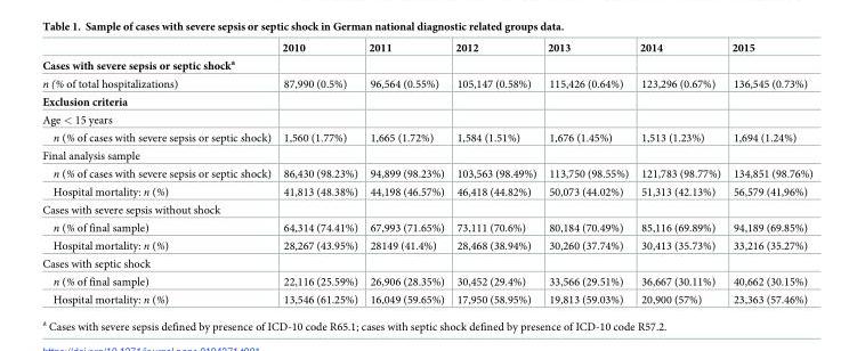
<table><thead><tr><td></td><td>2010</td><td>2011</td><td>2012</td><td>2013</td><td>2014</td><td>2015</td></tr></thead><tbody><tr><td colspan="7">Cases with severe sepsis or septic shock<sup>a</sup></td></tr><tr><td>n (% of total hospitalizations)</td><td>87,990 (0.5%)</td><td>96,564 (0.55%)</td><td>105,147 (0.58%)</td><td>115,426 (0.64%)</td><td>123,296 (0.67%)</td><td>136,545 (0.73%)</td></tr><tr><td colspan="7">Exclusion criteria</td></tr><tr><td colspan="7">Age &lt; 15 years</td></tr><tr><td>n (% of cases with severe sepsis or septic shock)</td><td>1,560 (1.77%)</td><td>1,665 (1.72%)</td><td>1,584 (1.51%)</td><td>1,676 (1.45%)</td><td>1,513 (1.23%)</td><td>1,694 (1.24%)</td></tr><tr><td colspan="7">Final analysis sample</td></tr><tr><td>n (% of cases with severe sepsis or septic shock)</td><td>86,430 (98.23%)</td><td>94,899 (98.23%)</td><td>103,563 (98.49%)</td><td>113,750 (98.55%)</td><td>121,783 (98.77%)</td><td>134,851 (98.76%)</td></tr><tr><td>Hospital mortality: n (%)</td><td>41,813 (48.38%)</td><td>44,198 (46.57%)</td><td>46,418 (44.82%)</td><td>50,073 (44.02%)</td><td>51,313 (42.13%)</td><td>56,579 (41,96%)</td></tr><tr><td colspan="7">Cases with severe sepsis without shock</td></tr><tr><td>n (% of final sample)</td><td>64,314 (74.41%)</td><td>67,993 (71.65%)</td><td>73,111 (70.6%)</td><td>80,184 (70.49%)</td><td>85,116 (69.89%)</td><td>94,189 (69.85%)</td></tr><tr><td>Hospital mortality: n (%)</td><td>28,267 (43.95%)</td><td>28149 (41.4%)</td><td>28,468 (38.94%)</td><td>30,260 (37.74%)</td><td>30,413 (35.73%)</td><td>33,216 (35.27%)</td></tr><tr><td colspan="7">Cases with septic shock</td></tr><tr><td>n (% of final sample)</td><td>22,116 (25.59%)</td><td>26,906 (28.35%)</td><td>30,452 (29.4%)</td><td>33,566 (29.51%)</td><td>36,667 (30.11%)</td><td>40,662 (30.15%)</td></tr><tr><td>Hospital mortality: n (%)</td><td>13,546 (61.25%)</td><td>16,049 (59.65%)</td><td>17,950 (58.95%)</td><td>19,813 (59.03%)</td><td>20,900 (57%)</td><td>23,363 (57.46%)</td></tr></tbody></table>